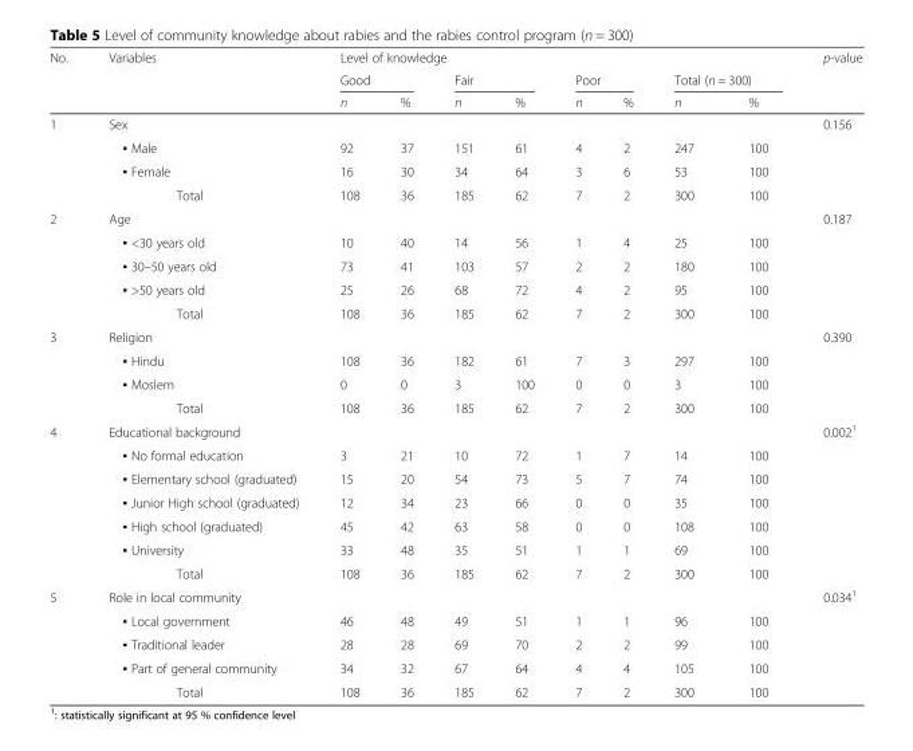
<table><thead><tr><td rowspan="3">No.</td><td rowspan="3">Variables</td><td colspan="8">Level of knowledge</td><td rowspan="3">p-value</td></tr><tr><td colspan="2">Good</td><td colspan="2">Fair</td><td colspan="2">Poor</td><td colspan="2">Total (n = 300)</td></tr><tr><td>n</td><td>%</td><td>n</td><td>%</td><td>n</td><td>%</td><td>n</td><td>%</td></tr></thead><tbody><tr><td rowspan="4">1</td><td>Sex</td><td></td><td></td><td></td><td></td><td></td><td></td><td></td><td></td><td rowspan="4">0.156</td></tr><tr><td>▪ Male</td><td>92</td><td>37</td><td>151</td><td>61</td><td>4</td><td>2</td><td>247</td><td>100</td></tr><tr><td>▪ Female</td><td>16</td><td>30</td><td>34</td><td>64</td><td>3</td><td>6</td><td>53</td><td>100</td></tr><tr><td>Total</td><td>108</td><td>36</td><td>185</td><td>62</td><td>7</td><td>2</td><td>300</td><td>100</td></tr><tr><td rowspan="5">2</td><td>Age</td><td></td><td></td><td></td><td></td><td></td><td></td><td></td><td></td><td rowspan="5">0.187</td></tr><tr><td>▪ &lt;30 years old</td><td>10</td><td>40</td><td>14</td><td>56</td><td>1</td><td>4</td><td>25</td><td>100</td></tr><tr><td>▪ 30–50 years old</td><td>73</td><td>41</td><td>103</td><td>57</td><td>2</td><td>2</td><td>180</td><td>100</td></tr><tr><td>▪ &gt;50 years old</td><td>25</td><td>26</td><td>68</td><td>72</td><td>4</td><td>2</td><td>95</td><td>100</td></tr><tr><td>Total</td><td>108</td><td>36</td><td>185</td><td>62</td><td>7</td><td>2</td><td>300</td><td>100</td></tr><tr><td rowspan="4">3</td><td>Religion</td><td></td><td></td><td></td><td></td><td></td><td></td><td></td><td></td><td rowspan="4">0.390</td></tr><tr><td>▪ Hindu</td><td>108</td><td>36</td><td>182</td><td>61</td><td>7</td><td>3</td><td>297</td><td>100</td></tr><tr><td>▪ Moslem</td><td>0</td><td>0</td><td>3</td><td>100</td><td>0</td><td>0</td><td>3</td><td>100</td></tr><tr><td>Total</td><td>108</td><td>36</td><td>185</td><td>62</td><td>7</td><td>2</td><td>300</td><td>100</td></tr><tr><td rowspan="7">4</td><td>Educational background</td><td></td><td></td><td></td><td></td><td></td><td></td><td></td><td></td><td rowspan="7">0.002<sup>1</sup></td></tr><tr><td>▪ No formal education</td><td>3</td><td>21</td><td>10</td><td>72</td><td>1</td><td>7</td><td>14</td><td>100</td></tr><tr><td>▪ Elementary school (graduated)</td><td>15</td><td>20</td><td>54</td><td>73</td><td>5</td><td>7</td><td>74</td><td>100</td></tr><tr><td>▪ Junior High school (graduated)</td><td>12</td><td>34</td><td>23</td><td>66</td><td>0</td><td>0</td><td>35</td><td>100</td></tr><tr><td>▪ High school (graduated)</td><td>45</td><td>42</td><td>63</td><td>58</td><td>0</td><td>0</td><td>108</td><td>100</td></tr><tr><td>▪ University</td><td>33</td><td>48</td><td>35</td><td>51</td><td>1</td><td>1</td><td>69</td><td>100</td></tr><tr><td>Total</td><td>108</td><td>36</td><td>185</td><td>62</td><td>7</td><td>2</td><td>300</td><td>100</td></tr><tr><td rowspan="5">5</td><td>Role in local community</td><td></td><td></td><td></td><td></td><td></td><td></td><td></td><td></td><td rowspan="5">0.034<sup>1</sup></td></tr><tr><td>▪ Local government</td><td>46</td><td>48</td><td>49</td><td>51</td><td>1</td><td>1</td><td>96</td><td>100</td></tr><tr><td>▪ Traditional leader</td><td>28</td><td>28</td><td>69</td><td>70</td><td>2</td><td>2</td><td>99</td><td>100</td></tr><tr><td>▪ Part of general community</td><td>34</td><td>32</td><td>67</td><td>64</td><td>4</td><td>4</td><td>105</td><td>100</td></tr><tr><td>Total</td><td>108</td><td>36</td><td>185</td><td>62</td><td>7</td><td>2</td><td>300</td><td>100</td></tr></tbody></table>